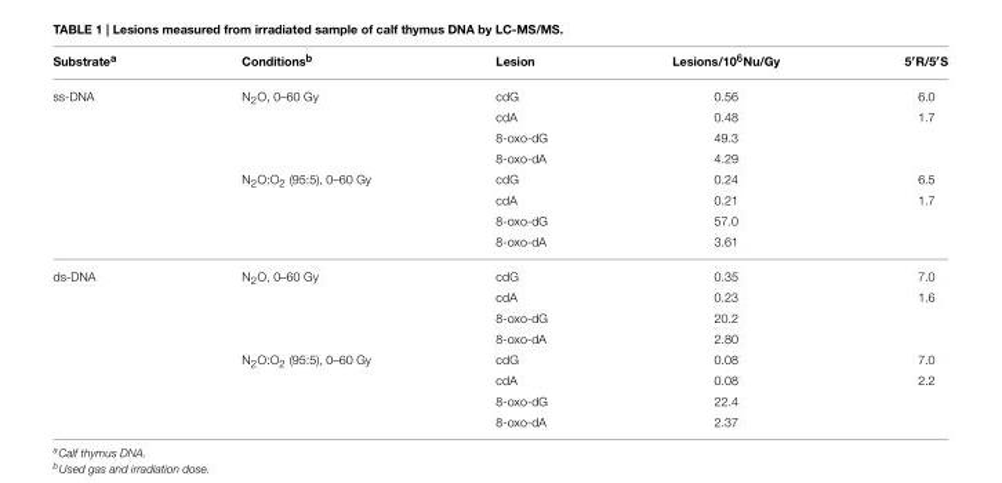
<table><thead><tr><td>Substrate<sup>a</sup></td><td>Conditions<sup>b</sup></td><td>Lesion</td><td>Lesions/10<sup>6</sup>Nu/Gy</td><td>5′R/5′S</td></tr></thead><tbody><tr><td rowspan="8">ss-DNA</td><td>N<sub>2</sub>O, 0–60 Gy</td><td>cdG</td><td>0.56</td><td>6.0</td></tr><tr><td></td><td>cdA</td><td>0.48</td><td>1.7</td></tr><tr><td></td><td>8-oxo-dG</td><td>49.3</td><td></td></tr><tr><td></td><td>8-oxo-dA</td><td>4.29</td><td></td></tr><tr><td>N<sub>2</sub>O:O<sub>2</sub> (95:5), 0–60 Gy</td><td>cdG</td><td>0.24</td><td>6.5</td></tr><tr><td></td><td>cdA</td><td>0.21</td><td>1.7</td></tr><tr><td></td><td>8-oxo-dG</td><td>57.0</td><td></td></tr><tr><td></td><td>8-oxo-dA</td><td>3.61</td><td></td></tr><tr><td rowspan="8">ds-DNA</td><td>N<sub>2</sub>O, 0–60 Gy</td><td>cdG</td><td>0.35</td><td>7.0</td></tr><tr><td></td><td>cdA</td><td>0.23</td><td>1.6</td></tr><tr><td></td><td>8-oxo-dG</td><td>20.2</td><td></td></tr><tr><td></td><td>8-oxo-dA</td><td>2.80</td><td></td></tr><tr><td>N<sub>2</sub>O:O<sub>2</sub> (95:5), 0–60 Gy</td><td>cdG</td><td>0.08</td><td>7.0</td></tr><tr><td></td><td>cdA</td><td>0.08</td><td>2.2</td></tr><tr><td></td><td>8-oxo-dG</td><td>22.4</td><td></td></tr><tr><td></td><td>8-oxo-dA</td><td>2.37</td><td></td></tr></tbody></table>